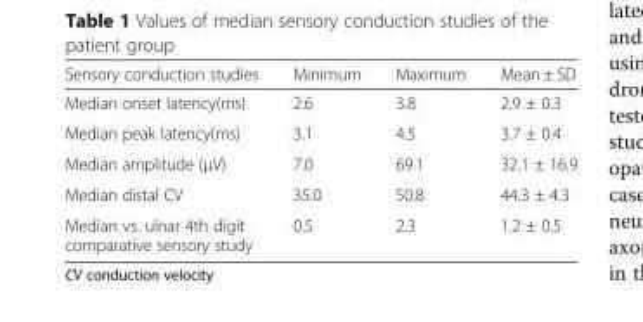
<table><thead><tr><td>Sensory conduction studies</td><td>Minimum</td><td>Maximum</td><td>Mean ± SD</td></tr></thead><tbody><tr><td>Median onset latency(ms)</td><td>2.6</td><td>3.8</td><td>2.9 ± 0.3</td></tr><tr><td>Median peak latency(ms)</td><td>3.1</td><td>4.5</td><td>3.7 ± 0.4</td></tr><tr><td>Median amplitude (μV)</td><td>7.0</td><td>69.1</td><td>32.1 ± 16.9</td></tr><tr><td>Median distal CV</td><td>35.0</td><td>50.8</td><td>44.3 ± 4.3</td></tr><tr><td>Median vs. ulnar 4th digit comparative sensory study</td><td>0.5</td><td>2.3</td><td>1.2 ± 0.5</td></tr></tbody></table>